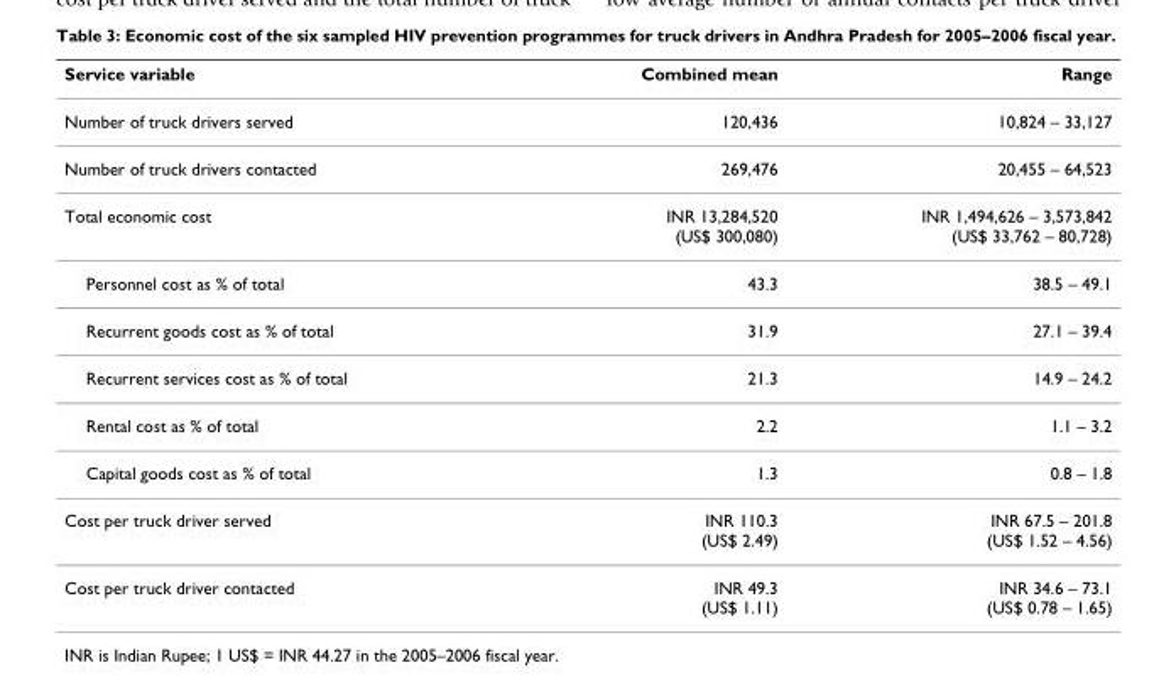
<table><thead><tr><td>Service variable</td><td>Combined mean</td><td>Range</td></tr></thead><tbody><tr><td>Number of truck drivers served</td><td>120,436</td><td>10,824 – 33,127</td></tr><tr><td>Number of truck drivers contacted</td><td>269,476</td><td>20,455 – 64,523</td></tr><tr><td>Total economic cost</td><td>INR 13,284,520 (US$ 300,080)</td><td>INR 1,494,626 – 3,573,842 (US$ 33,762 – 80,728)</td></tr><tr><td>Personnel cost as % of total</td><td>43.3</td><td>38.5 – 49.1</td></tr><tr><td>Recurrent goods cost as % of total</td><td>31.9</td><td>27.1 – 39.4</td></tr><tr><td>Recurrent services cost as % of total</td><td>21.3</td><td>14.9 – 24.2</td></tr><tr><td>Rental cost as % of total</td><td>2.2</td><td>1.1 – 3.2</td></tr><tr><td>Capital goods cost as % of total</td><td>1.3</td><td>0.8 – 1.8</td></tr><tr><td>Cost per truck driver served</td><td>INR 110.3 (US$ 2.49)</td><td>INR 67.5 – 201.8 (US$ 1.52 – 4.56)</td></tr><tr><td>Cost per truck driver contacted</td><td>INR 49.3 (US$ 1.11)</td><td>INR 34.6 – 73.1 (US$ 0.78 – 1.65)</td></tr></tbody></table>